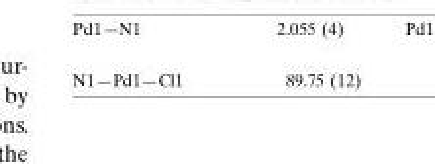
<table><tbody><tr><td>N1—Pd1—Cl1</td><td>89.75 (12)</td></tr></tbody></table>